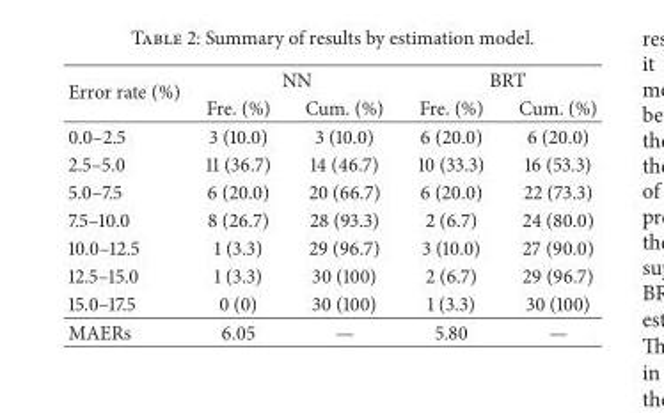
<table><thead><tr><td rowspan="2">Error rate (%)</td><td colspan="2">NN</td><td colspan="2">BRT</td></tr><tr><td>Fre. (%)</td><td>Cum. (%)</td><td>Fre. (%)</td><td>Cum. (%)</td></tr></thead><tbody><tr><td>0.0–2.5</td><td>3 (10.0)</td><td>3 (10.0)</td><td>6 (20.0)</td><td>6 (20.0)</td></tr><tr><td>2.5–5.0</td><td>11 (36.7)</td><td>14 (46.7)</td><td>10 (33.3)</td><td>16 (53.3)</td></tr><tr><td>5.0–7.5</td><td>6 (20.0)</td><td>20 (66.7)</td><td>6 (20.0)</td><td>22 (73.3)</td></tr><tr><td>7.5–10.0</td><td>8 (26.7)</td><td>28 (93.3)</td><td>2 (6.7)</td><td>24 (80.0)</td></tr><tr><td>10.0–12.5</td><td>1 (3.3)</td><td>29 (96.7)</td><td>3 (10.0)</td><td>27 (90.0)</td></tr><tr><td>12.5–15.0</td><td>1 (3.3)</td><td>30 (100)</td><td>2 (6.7)</td><td>29 (96.7)</td></tr><tr><td>15.0–17.5</td><td>0 (0)</td><td>30 (100)</td><td>1 (3.3)</td><td>30 (100)</td></tr><tr><td>MAERs</td><td>6.05</td><td>—</td><td>5.80</td><td>—</td></tr></tbody></table>